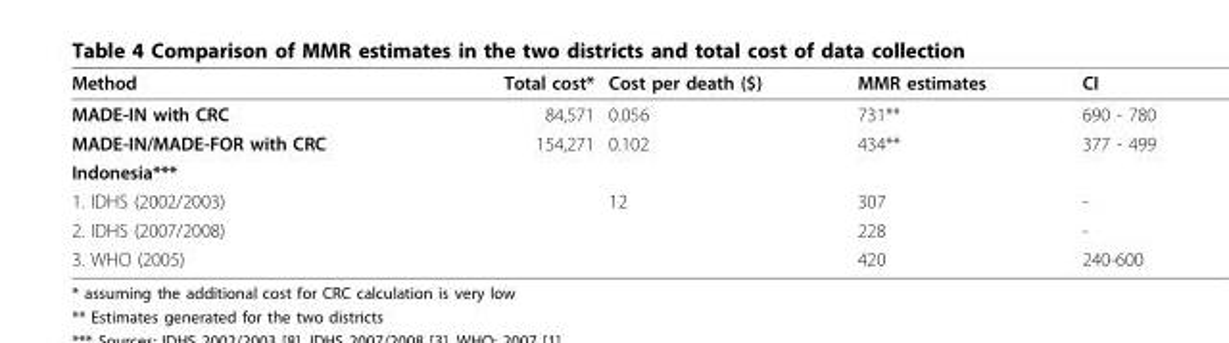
<table><thead><tr><td>Method</td><td>Total cost*</td><td>Cost per death ($)</td><td>MMR estimates</td><td>CI</td></tr></thead><tbody><tr><td>MADE-IN with CRC</td><td>84,571</td><td>0.056</td><td>731**</td><td>690 - 780</td></tr><tr><td>MADE-IN/MADE-FOR with CRC</td><td>154,271</td><td>0.102</td><td>434**</td><td>377 - 499</td></tr><tr><td colspan="5">Indonesia***</td></tr><tr><td>1. IDHS (2002/2003)</td><td></td><td>12</td><td>307</td><td>-</td></tr><tr><td>2. IDHS (2007/2008)</td><td></td><td></td><td>228</td><td>-</td></tr><tr><td>3. WHO (2005)</td><td></td><td></td><td>420</td><td>240-600</td></tr></tbody></table>